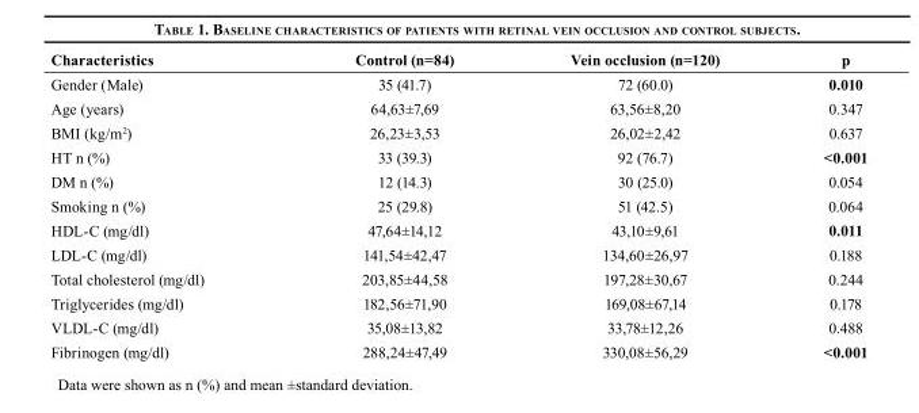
<table><thead><tr><td>Characteristics</td><td>Control (n=84)</td><td>Vein occlusion (n=120)</td><td>p</td></tr></thead><tbody><tr><td>Gender (Male)</td><td>35 (41.7)</td><td>72 (60.0)</td><td>0.010</td></tr><tr><td>Age (years)</td><td>64,63±7,69</td><td>63,56±8,20</td><td>0.347</td></tr><tr><td>BMI (kg/m<sup>2</sup>)</td><td>26,23±3,53</td><td>26,02±2,42</td><td>0.637</td></tr><tr><td>HT n (%)</td><td>33 (39.3)</td><td>92 (76.7)</td><td>&lt;0.001</td></tr><tr><td>DM n (%)</td><td>12 (14.3)</td><td>30 (25.0)</td><td>0.054</td></tr><tr><td>Smoking n (%)</td><td>25 (29.8)</td><td>51 (42.5)</td><td>0.064</td></tr><tr><td>HDL-C (mg/dl)</td><td>47,64±14,12</td><td>43,10±9,61</td><td>0.011</td></tr><tr><td>LDL-C (mg/dl)</td><td>141,54±42,47</td><td>134,60±26,97</td><td>0.188</td></tr><tr><td>Total cholesterol (mg/dl)</td><td>203,85±44,58</td><td>197,28±30,67</td><td>0.244</td></tr><tr><td>Triglycerides (mg/dl)</td><td>182,56±71,90</td><td>169,08±67,14</td><td>0.178</td></tr><tr><td>VLDL-C (mg/dl)</td><td>35,08±13,82</td><td>33,78±12,26</td><td>0.488</td></tr><tr><td>Fibrinogen (mg/dl)</td><td>288,24±47,49</td><td>330,08±56,29</td><td>&lt;0.001</td></tr></tbody></table>